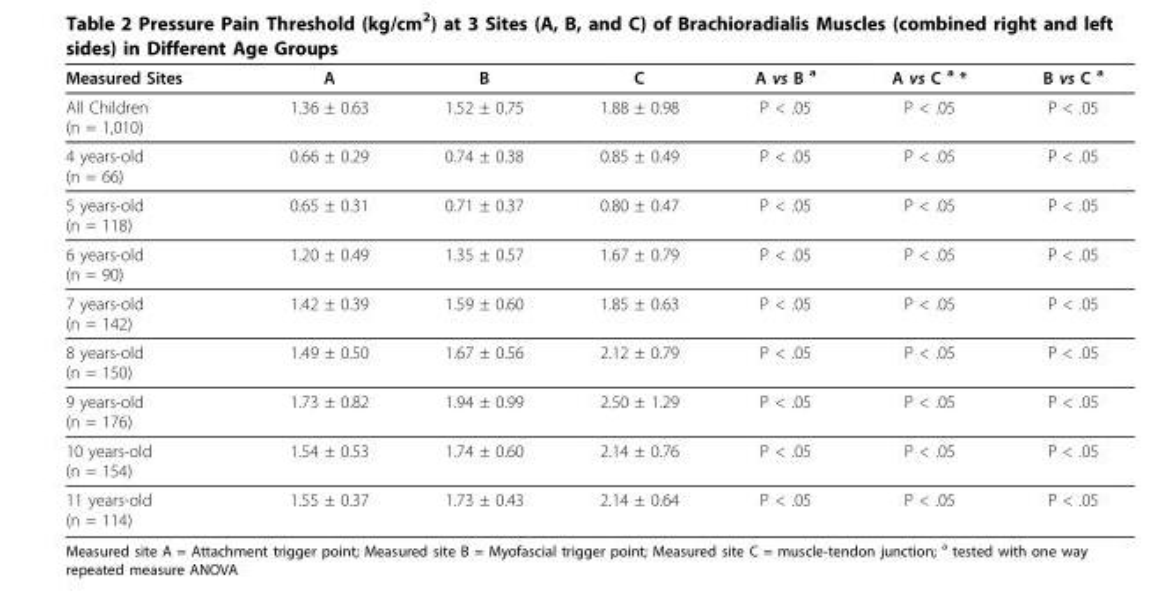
<table><thead><tr><td>Measured Sites</td><td>A</td><td>B</td><td>C</td><td>A vs B <sup>a</sup></td><td>A vs C <sup>a</sup> *</td><td>B vs C <sup>a</sup></td></tr></thead><tbody><tr><td>All Children (n = 1,010)</td><td>1.36 ± 0.63</td><td>1.52 ± 0.75</td><td>1.88 ± 0.98</td><td>P &lt; .05</td><td>P &lt; .05</td><td>P &lt; .05</td></tr><tr><td>4 years-old (n = 66)</td><td>0.66 ± 0.29</td><td>0.74 ± 0.38</td><td>0.85 ± 0.49</td><td>P &lt; .05</td><td>P &lt; .05</td><td>P &lt; .05</td></tr><tr><td>5 years-old (n = 118)</td><td>0.65 ± 0.31</td><td>0.71 ± 0.37</td><td>0.80 ± 0.47</td><td>P &lt; .05</td><td>P &lt; .05</td><td>P &lt; .05</td></tr><tr><td>6 years-old (n = 90)</td><td>1.20 ± 0.49</td><td>1.35 ± 0.57</td><td>1.67 ± 0.79</td><td>P &lt; .05</td><td>P &lt; .05</td><td>P &lt; .05</td></tr><tr><td>7 years-old (n = 142)</td><td>1.42 ± 0.39</td><td>1.59 ± 0.60</td><td>1.85 ± 0.63</td><td>P &lt; .05</td><td>P &lt; .05</td><td>P &lt; .05</td></tr><tr><td>8 years-old (n = 150)</td><td>1.49 ± 0.50</td><td>1.67 ± 0.56</td><td>2.12 ± 0.79</td><td>P &lt; .05</td><td>P &lt; .05</td><td>P &lt; .05</td></tr><tr><td>9 years-old (n = 176)</td><td>1.73 ± 0.82</td><td>1.94 ± 0.99</td><td>2.50 ± 1.29</td><td>P &lt; .05</td><td>P &lt; .05</td><td>P &lt; .05</td></tr><tr><td>10 years-old (n = 154)</td><td>1.54 ± 0.53</td><td>1.74 ± 0.60</td><td>2.14 ± 0.76</td><td>P &lt; .05</td><td>P &lt; .05</td><td>P &lt; .05</td></tr><tr><td>11 years-old (n = 114)</td><td>1.55 ± 0.37</td><td>1.73 ± 0.43</td><td>2.14 ± 0.64</td><td>P &lt; .05</td><td>P &lt; .05</td><td>P &lt; .05</td></tr></tbody></table>